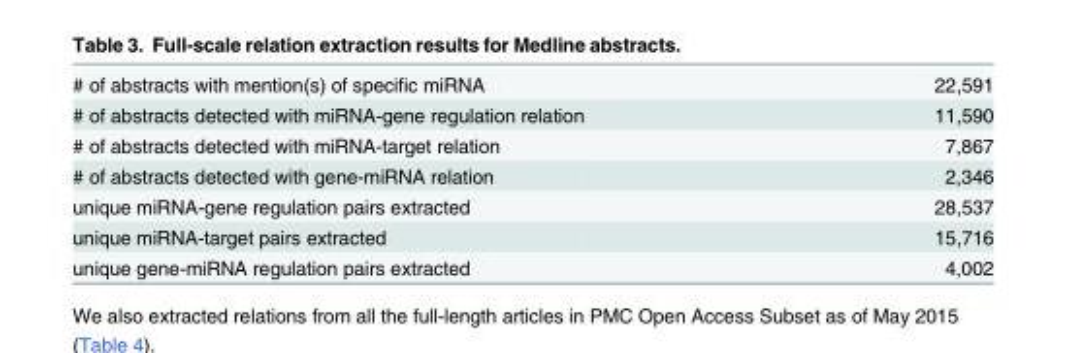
<table><tbody><tr><td># of abstracts with mention(s) of specific miRNA</td><td>22,591</td></tr><tr><td># of abstracts detected with miRNA-gene regulation relation</td><td>11,590</td></tr><tr><td># of abstracts detected with miRNA-target relation</td><td>7,867</td></tr><tr><td># of abstracts detected with gene-miRNA relation</td><td>2,346</td></tr><tr><td>unique miRNA-gene regulation pairs extracted</td><td>28,537</td></tr><tr><td>unique miRNA-target pairs extracted</td><td>15,716</td></tr><tr><td>unique gene-miRNA regulation pairs extracted</td><td>4,002</td></tr></tbody></table>